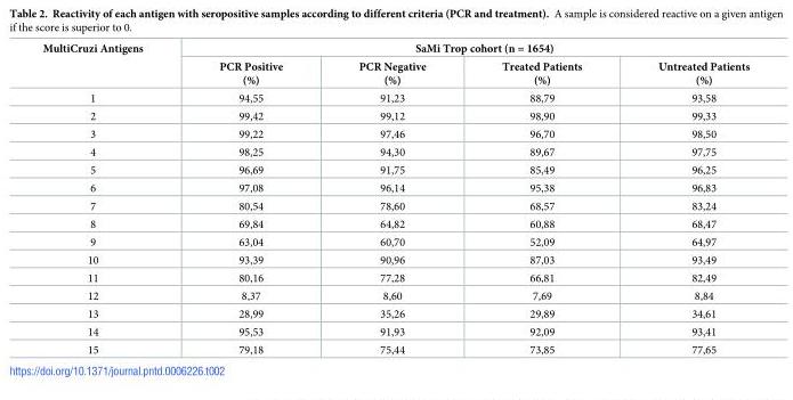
<table><thead><tr><td rowspan="2">MultiCruzi Antigens</td><td colspan="4">SaMi Trop cohort (n = 1654)</td></tr><tr><td>PCR Positive (%)</td><td>PCR Negative (%)</td><td>Treated Patients (%)</td><td>Untreated Patients (%)</td></tr></thead><tbody><tr><td>1</td><td>94,55</td><td>91,23</td><td>88,79</td><td>93,58</td></tr><tr><td>2</td><td>99,42</td><td>99,12</td><td>98,90</td><td>99,33</td></tr><tr><td>3</td><td>99,22</td><td>97,46</td><td>96,70</td><td>98,50</td></tr><tr><td>4</td><td>98,25</td><td>94,30</td><td>89,67</td><td>97,75</td></tr><tr><td>5</td><td>96,69</td><td>91,75</td><td>85,49</td><td>96,25</td></tr><tr><td>6</td><td>97,08</td><td>96,14</td><td>95,38</td><td>96,83</td></tr><tr><td>7</td><td>80,54</td><td>78,60</td><td>68,57</td><td>83,24</td></tr><tr><td>8</td><td>69,84</td><td>64,82</td><td>60,88</td><td>68,47</td></tr><tr><td>9</td><td>63,04</td><td>60,70</td><td>52,09</td><td>64,97</td></tr><tr><td>10</td><td>93,39</td><td>90,96</td><td>87,03</td><td>93,49</td></tr><tr><td>11</td><td>80,16</td><td>77,28</td><td>66,81</td><td>82,49</td></tr><tr><td>12</td><td>8,37</td><td>8,60</td><td>7,69</td><td>8,84</td></tr><tr><td>13</td><td>28,99</td><td>35,26</td><td>29,89</td><td>34,61</td></tr><tr><td>14</td><td>95,53</td><td>91,93</td><td>92,09</td><td>93,41</td></tr><tr><td>15</td><td>79,18</td><td>75,44</td><td>73,85</td><td>77,65</td></tr></tbody></table>